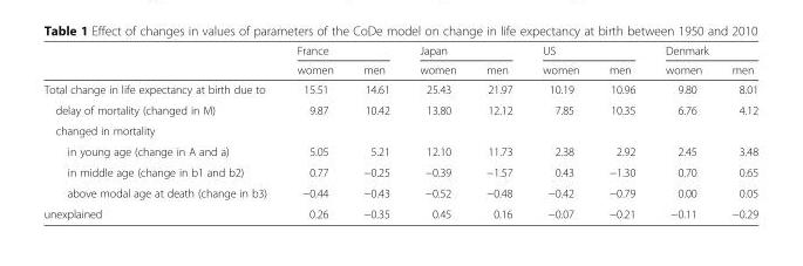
<table><thead><tr><td rowspan="2"></td><td colspan="2">France</td><td colspan="2">Japan</td><td colspan="2">US</td><td colspan="2">Denmark</td></tr><tr><td>women</td><td>men</td><td>women</td><td>men</td><td>women</td><td>men</td><td>women</td><td>men</td></tr></thead><tbody><tr><td>Total change in life expectancy at birth due to</td><td>15.51</td><td>14.61</td><td>25.43</td><td>21.97</td><td>10.19</td><td>10.96</td><td>9.80</td><td>8.01</td></tr><tr><td>delay of mortality (changed in M)</td><td>9.87</td><td>10.42</td><td>13.80</td><td>12.12</td><td>7.85</td><td>10.35</td><td>6.76</td><td>4.12</td></tr><tr><td colspan="9">changed in mortality</td></tr><tr><td>in young age (change in A and a)</td><td>5.05</td><td>5.21</td><td>12.10</td><td>11.73</td><td>2.38</td><td>2.92</td><td>2.45</td><td>3.48</td></tr><tr><td>in middle age (change in b1 and b2)</td><td>0.77</td><td>−0.25</td><td>−0.39</td><td>−1.57</td><td>0.43</td><td>−1.30</td><td>0.70</td><td>0.65</td></tr><tr><td>above modal age at death (change in b3)</td><td>−0.44</td><td>−0.43</td><td>−0.52</td><td>−0.48</td><td>−0.42</td><td>−0.79</td><td>0.00</td><td>0.05</td></tr><tr><td>unexplained</td><td>0.26</td><td>−0.35</td><td>0.45</td><td>0.16</td><td>−0.07</td><td>−0.21</td><td>−0.11</td><td>−0.29</td></tr></tbody></table>